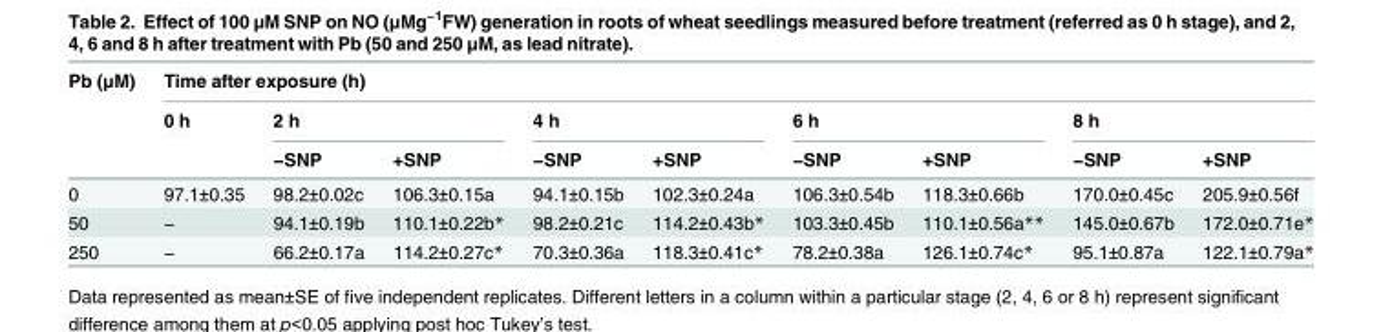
<table><thead><tr><td rowspan="3">Pb (μM)</td><td colspan="9">Time after exposure (h)</td></tr><tr><td rowspan="2">0 h</td><td colspan="2">2 h</td><td colspan="2">4 h</td><td colspan="2">6 h</td><td colspan="2">8 h</td></tr><tr><td>−SNP</td><td>+SNP</td><td>−SNP</td><td>+SNP</td><td>−SNP</td><td>+SNP</td><td>−SNP</td><td>+SNP</td></tr></thead><tbody><tr><td>0</td><td>97.1±0.35</td><td>98.2±0.02c</td><td>106.3±0.15a</td><td>94.1±0.15b</td><td>102.3±0.24a</td><td>106.3±0.54b</td><td>118.3±0.66b</td><td>170.0±0.45c</td><td>205.9±0.56f</td></tr><tr><td>50</td><td>−</td><td>94.1±0.19b</td><td>110.1±0.22b*</td><td>98.2±0.21c</td><td>114.2±0.43b*</td><td>103.3±0.45b</td><td>110.1±0.56a**</td><td>145.0±0.67b</td><td>172.0±0.71e*</td></tr><tr><td>250</td><td>−</td><td>66.2±0.17a</td><td>114.2±0.27c*</td><td>70.3±0.36a</td><td>118.3±0.41c*</td><td>78.2±0.38a</td><td>126.1±0.74c*</td><td>95.1±0.87a</td><td>122.1±0.79a*</td></tr></tbody></table>